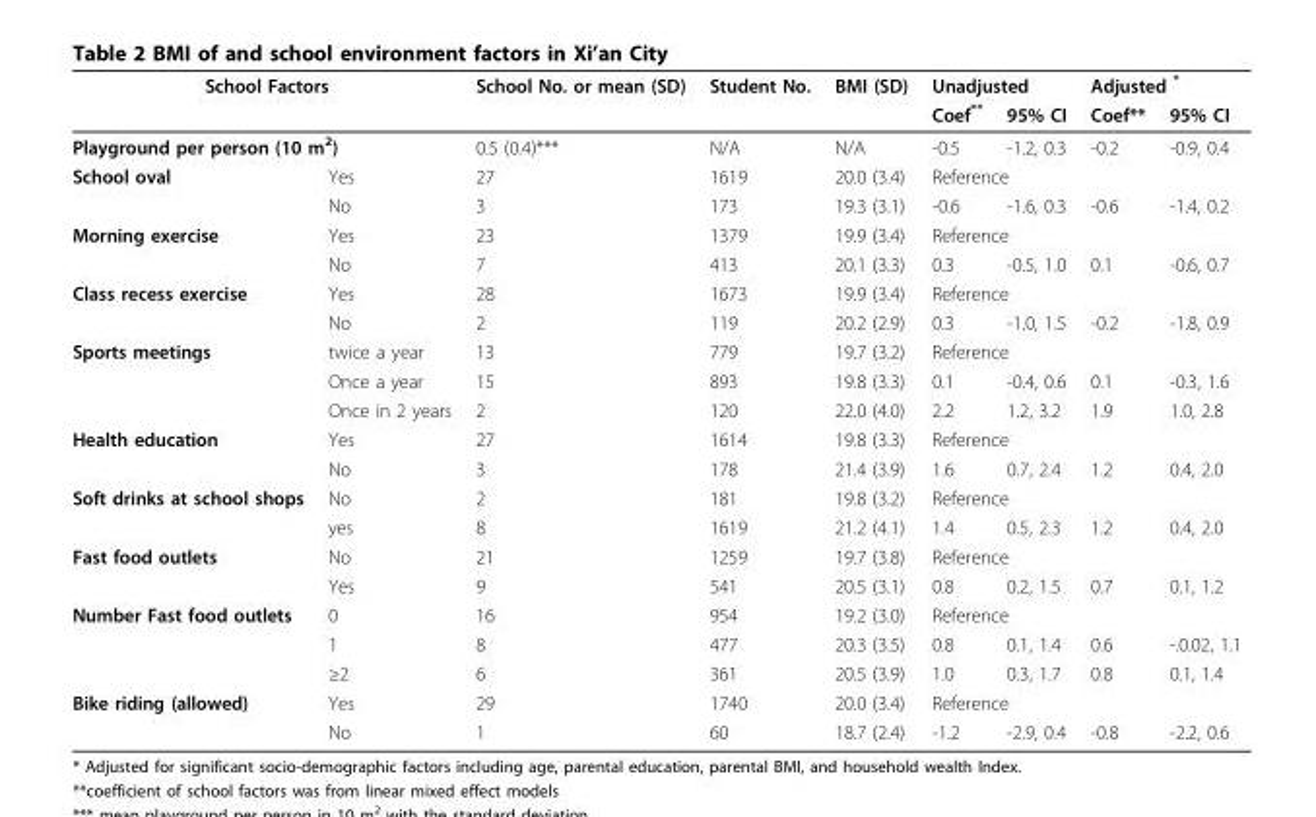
<table><thead><tr><td colspan="2">School Factors</td><td rowspan="2">School No. or mean (SD)</td><td rowspan="2">Student No.</td><td rowspan="2">BMI (SD)</td><td colspan="2">Unadjusted</td><td colspan="2">Adjusted *</td></tr><tr><td></td><td></td><td>Coef**</td><td>95% CI</td><td>Coef**</td><td>95% CI</td></tr></thead><tbody><tr><td colspan="2">Playground per person (10 m<sup>2</sup>)</td><td>0.5 (0.4)***</td><td>N/A</td><td>N/A</td><td>-0.5</td><td>-1.2, 0.3</td><td>-0.2</td><td>-0.9, 0.4</td></tr><tr><td rowspan="2">School oval</td><td>Yes</td><td>27</td><td>1619</td><td>20.0 (3.4)</td><td colspan="4">Reference</td></tr><tr><td>No</td><td>3</td><td>173</td><td>19.3 (3.1)</td><td>-0.6</td><td>-1.6, 0.3</td><td>-0.6</td><td>-1.4, 0.2</td></tr><tr><td rowspan="2">Morning exercise</td><td>Yes</td><td>23</td><td>1379</td><td>19.9 (3.4)</td><td colspan="4">Reference</td></tr><tr><td>No</td><td>7</td><td>413</td><td>20.1 (3.3)</td><td>0.3</td><td>-0.5, 1.0</td><td>0.1</td><td>-0.6, 0.7</td></tr><tr><td rowspan="2">Class recess exercise</td><td>Yes</td><td>28</td><td>1673</td><td>19.9 (3.4)</td><td colspan="4">Reference</td></tr><tr><td>No</td><td>2</td><td>119</td><td>20.2 (2.9)</td><td>0.3</td><td>-1.0, 1.5</td><td>-0.2</td><td>-1.8, 0.9</td></tr><tr><td rowspan="3">Sports meetings</td><td>twice a year</td><td>13</td><td>779</td><td>19.7 (3.2)</td><td colspan="4">Reference</td></tr><tr><td>Once a year</td><td>15</td><td>893</td><td>19.8 (3.3)</td><td>0.1</td><td>-0.4, 0.6</td><td>0.1</td><td>-0.3, 1.6</td></tr><tr><td>Once in 2 years</td><td>2</td><td>120</td><td>22.0 (4.0)</td><td>2.2</td><td>1.2, 3.2</td><td>1.9</td><td>1.0, 2.8</td></tr><tr><td rowspan="2">Health education</td><td>Yes</td><td>27</td><td>1614</td><td>19.8 (3.3)</td><td colspan="4">Reference</td></tr><tr><td>No</td><td>3</td><td>178</td><td>21.4 (3.9)</td><td>1.6</td><td>0.7, 2.4</td><td>1.2</td><td>0.4, 2.0</td></tr><tr><td rowspan="2">Soft drinks at school shops</td><td>No</td><td>2</td><td>181</td><td>19.8 (3.2)</td><td colspan="4">Reference</td></tr><tr><td>yes</td><td>8</td><td>1619</td><td>21.2 (4.1)</td><td>1.4</td><td>0.5, 2.3</td><td>1.2</td><td>0.4, 2.0</td></tr><tr><td rowspan="2">Fast food outlets</td><td>No</td><td>21</td><td>1259</td><td>19.7 (3.8)</td><td colspan="4">Reference</td></tr><tr><td>Yes</td><td>9</td><td>541</td><td>20.5 (3.1)</td><td>0.8</td><td>0.2, 1.5</td><td>0.7</td><td>0.1, 1.2</td></tr><tr><td rowspan="3">Number Fast food outlets</td><td>0</td><td>16</td><td>954</td><td>19.2 (3.0)</td><td colspan="4">Reference</td></tr><tr><td>1</td><td>8</td><td>477</td><td>20.3 (3.5)</td><td>0.8</td><td>0.1, 1.4</td><td>0.6</td><td>-.0.02, 1.1</td></tr><tr><td>≥2</td><td>6</td><td>361</td><td>20.5 (3.9)</td><td>1.0</td><td>0.3, 1.7</td><td>0.8</td><td>0.1, 1.4</td></tr><tr><td rowspan="2">Bike riding (allowed)</td><td>Yes</td><td>29</td><td>1740</td><td>20.0 (3.4)</td><td colspan="4">Reference</td></tr><tr><td>No</td><td>1</td><td>60</td><td>18.7 (2.4)</td><td>-1.2</td><td>-2.9, 0.4</td><td>-0.8</td><td>-2.2, 0.6</td></tr></tbody></table>